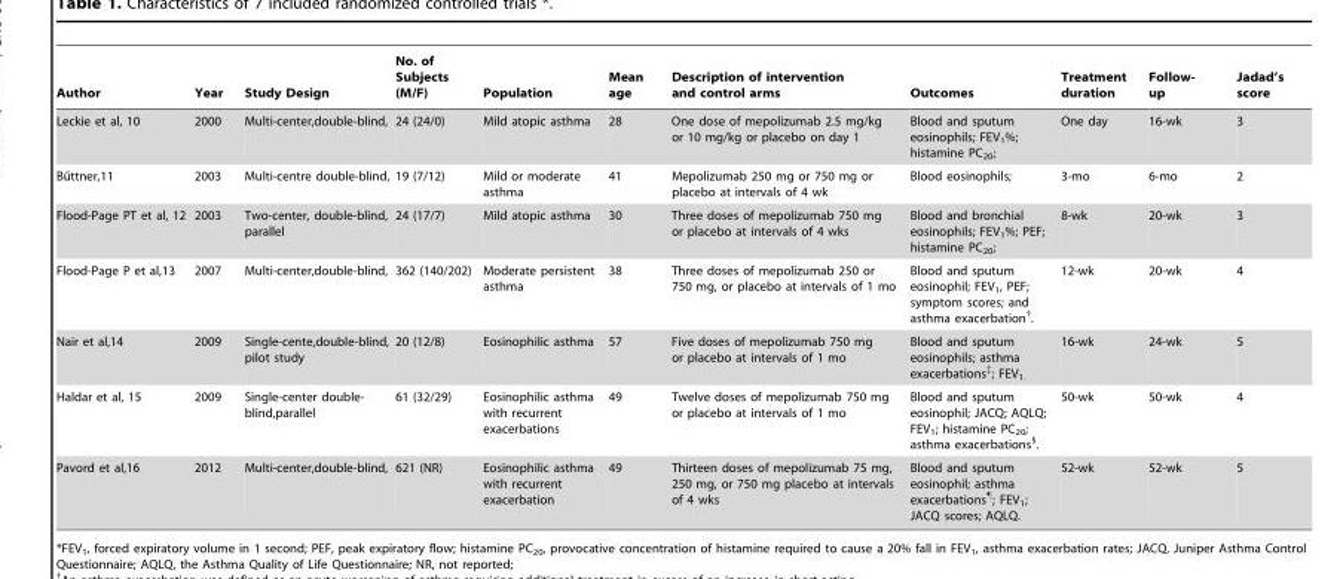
<table><thead><tr><td>Author</td><td>Year</td><td>Study Design</td><td>No. of Subjects (M/F)</td><td>Population</td><td>Mean age</td><td>Description of intervention and control arms</td><td>Outcomes</td><td>Treatment duration</td><td>Follow- up</td><td>Jadad’s score</td></tr></thead><tbody><tr><td>Leckie et al, 10</td><td>2000</td><td>Multi-center,double-blind,</td><td>24 (24/0)</td><td>Mild atopic asthma</td><td>28</td><td>One dose of mepolizumab 2.5 mg/kg or 10 mg/kg or placebo on day 1</td><td>Blood and sputum eosinophils; FEV<sub>1</sub>%; histamine PC<sub>20</sub>;</td><td>One day</td><td>16-wk</td><td>3</td></tr><tr><td>Bu˝ttner,11</td><td>2003</td><td>Multi-centre double-blind,</td><td>19 (7/12)</td><td>Mild or moderate asthma</td><td>41</td><td>Mepolizumab 250 mg or 750 mg or placebo at intervals of 4 wk</td><td>Blood eosinophils;</td><td>3-mo</td><td>6-mo</td><td>2</td></tr><tr><td>Flood-Page PT et al, 12</td><td>2003</td><td>Two-center, double-blind, parallel</td><td>24 (17/7)</td><td>Mild atopic asthma</td><td>30</td><td>Three doses of mepolizumab 750 mg or placebo at intervals of 4 wks</td><td>Blood and bronchial eosinophils; FEV<sub>1</sub>%; PEF; histamine PC<sub>20</sub>;</td><td>8-wk</td><td>20-wk</td><td>3</td></tr><tr><td>Flood-Page P et al,13</td><td>2007</td><td>Multi-center,double-blind,</td><td>362 (140/202)</td><td>Moderate persistent asthma</td><td>38</td><td>Three doses of mepolizumab 250 or 750 mg, or placebo at intervals of 1 mo</td><td>Blood and sputum eosinophil; FEV<sub>1</sub>, PEF; symptom scores; and asthma exacerbation†.</td><td>12-wk</td><td>20-wk</td><td>4</td></tr><tr><td>Nair et al,14</td><td>2009</td><td>Single-cente,double-blind, pilot study</td><td>20 (12/8)</td><td>Eosinophilic asthma</td><td>57</td><td>Five doses of mepolizumab 750 mg or placebo at intervals of 1 mo</td><td>Blood and sputum eosinophils; asthma exacerbations‡; FEV<sub>1.</sub></td><td>16-wk</td><td>24-wk</td><td>5</td></tr><tr><td>Haldar et al, 15</td><td>2009</td><td>Single-center double- blind,parallel</td><td>61 (32/29)</td><td>Eosinophilic asthma with recurrent exacerbations</td><td>49</td><td>Twelve doses of mepolizumab 750 mg or placebo at intervals of 1 mo</td><td>Blood and sputum eosinophil; JACQ; AQLQ; FEV<sub>1</sub>; histamine PC<sub>20</sub>; asthma exacerbations§.</td><td>50-wk</td><td>50-wk</td><td>4</td></tr><tr><td>Pavord et al,16</td><td>2012</td><td>Multi-center,double-blind,</td><td>621 (NR)</td><td>Eosinophilic asthma with recurrent exacerbation</td><td>49</td><td>Thirteen doses of mepolizumab 75 mg, 250 mg, or 750 mg placebo at intervals of 4 wks</td><td>Blood and sputum eosinophil; asthma exacerbations¶; FEV<sub>1</sub>; JACQ scores; AQLQ.</td><td>52-wk</td><td>52-wk</td><td>5</td></tr></tbody></table>